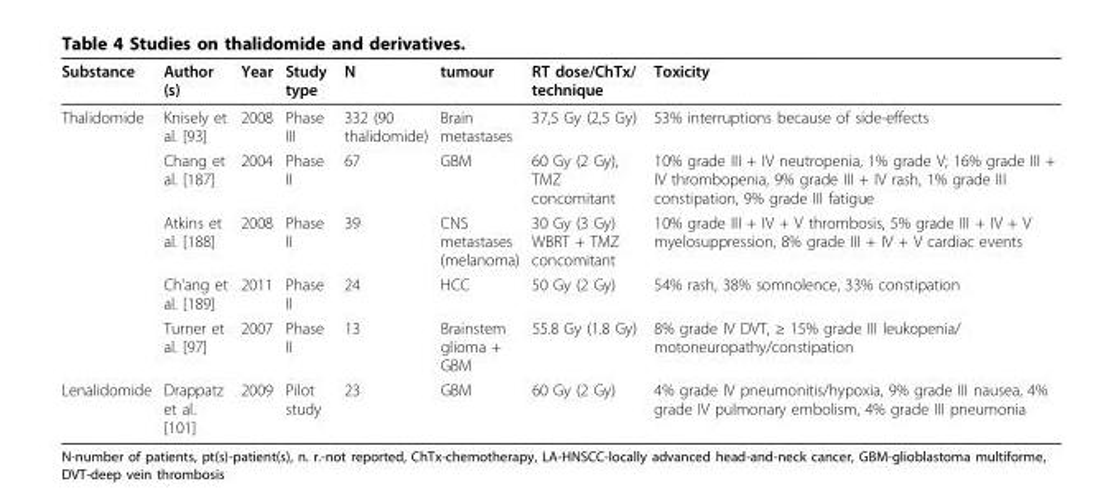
<table><thead><tr><td>Substance</td><td>Author (s)</td><td>Year</td><td>Study type</td><td>N</td><td>tumour</td><td>RT dose/ChTx/ technique</td><td>Toxicity</td></tr></thead><tbody><tr><td rowspan="5">Thalidomide</td><td>Knisely et al. [93]</td><td>2008</td><td>Phase III</td><td>332 (90 thalidomide)</td><td>Brain metastases</td><td>37,5 Gy (2,5 Gy)</td><td>53% interruptions because of side-effects</td></tr><tr><td>Chang et al. [187]</td><td>2004</td><td>Phase II</td><td>67</td><td>GBM</td><td>60 Gy (2 Gy), TMZ concomitant</td><td>10% grade III + IV neutropenia, 1% grade V; 16% grade III + IV thrombopenia, 9% grade III + IV rash, 1% grade III constipation, 9% grade III fatigue</td></tr><tr><td>Atkins et al. [188]</td><td>2008</td><td>Phase II</td><td>39</td><td>CNS metastases (melanoma)</td><td>30 Gy (3 Gy) WBRT + TMZ concomitant</td><td>10% grade III + IV + V thrombosis, 5% grade III + IV + V myelosuppression, 8% grade III + IV + V cardiac events</td></tr><tr><td>Ch’ang et al. [189]</td><td>2011</td><td>Phase II</td><td>24</td><td>HCC</td><td>50 Gy (2 Gy)</td><td>54% rash, 38% somnolence, 33% constipation</td></tr><tr><td>Turner et al. [97]</td><td>2007</td><td>Phase II</td><td>13</td><td>Brainstem glioma + GBM</td><td>55.8 Gy (1.8 Gy)</td><td>8% grade IV DVT, ≥ 15% grade III leukopenia/ motoneuropathy/constipation</td></tr><tr><td>Lenalidomide</td><td>Drappatz et al. [101]</td><td>2009</td><td>Pilot study</td><td>23</td><td>GBM</td><td>60 Gy (2 Gy)</td><td>4% grade IV pneumonitis/hypoxia, 9% grade III nausea, 4% grade IV pulmonary embolism, 4% grade III pneumonia</td></tr></tbody></table>